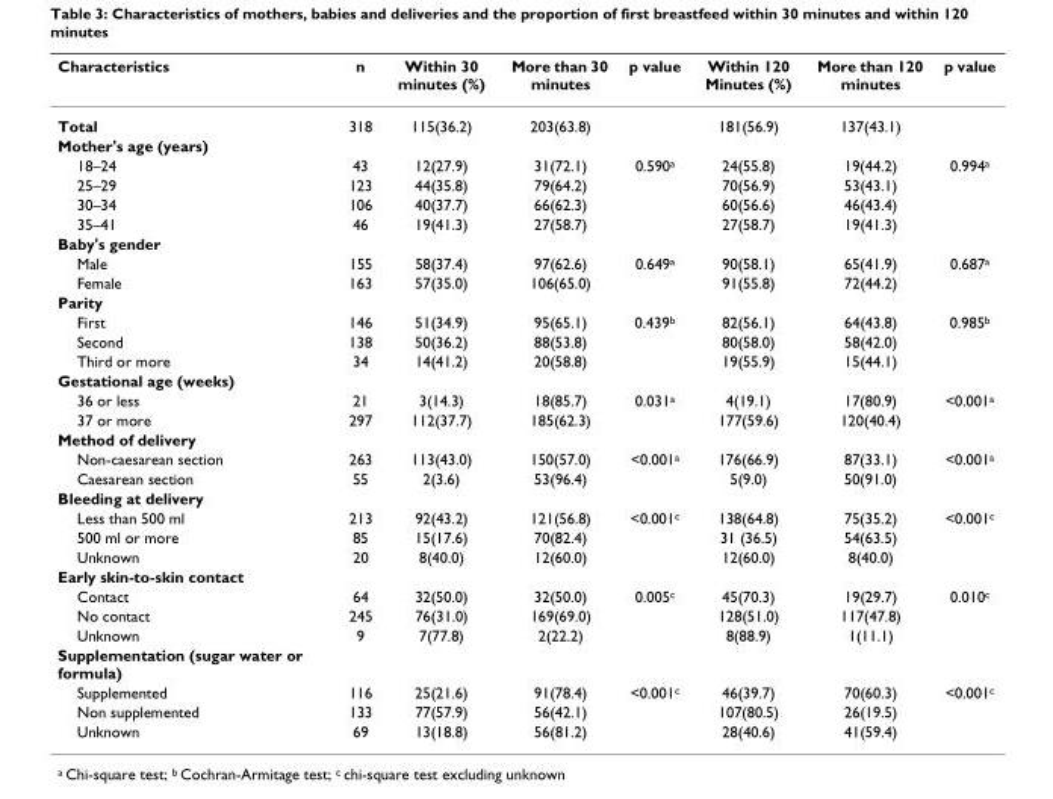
<table><thead><tr><td>Characteristics</td><td>n</td><td>Within 30 minutes (%)</td><td>More than 30 minutes</td><td>p value</td><td>Within 120 Minutes (%)</td><td>More than 120 minutes</td><td>p value</td></tr></thead><tbody><tr><td>Total</td><td>318</td><td>115(36.2)</td><td>203(63.8)</td><td></td><td>181(56.9)</td><td>137(43.1)</td><td></td></tr><tr><td colspan="8">Mother&#x27;s age (years)</td></tr><tr><td>18–24</td><td>43</td><td>12(27.9)</td><td>31(72.1)</td><td>0.590<sup>a</sup></td><td>24(55.8)</td><td>19(44.2)</td><td>0.994<sup>a</sup></td></tr><tr><td>25–29</td><td>123</td><td>44(35.8)</td><td>79(64.2)</td><td></td><td>70(56.9)</td><td>53(43.1)</td><td></td></tr><tr><td>30–34</td><td>106</td><td>40(37.7)</td><td>66(62.3)</td><td></td><td>60(56.6)</td><td>46(43.4)</td><td></td></tr><tr><td>35–41</td><td>46</td><td>19(41.3)</td><td>27(58.7)</td><td></td><td>27(58.7)</td><td>19(41.3)</td><td></td></tr><tr><td colspan="8">Baby&#x27;s gender</td></tr><tr><td>Male</td><td>155</td><td>58(37.4)</td><td>97(62.6)</td><td>0.649<sup>a</sup></td><td>90(58.1)</td><td>65(41.9)</td><td>0.687<sup>a</sup></td></tr><tr><td>Female</td><td>163</td><td>57(35.0)</td><td>106(65.0)</td><td></td><td>91(55.8)</td><td>72(44.2)</td><td></td></tr><tr><td colspan="8">Parity</td></tr><tr><td>First</td><td>146</td><td>51(34.9)</td><td>95(65.1)</td><td>0.439<sup>b</sup></td><td>82(56.1)</td><td>64(43.8)</td><td>0.985<sup>b</sup></td></tr><tr><td>Second</td><td>138</td><td>50(36.2)</td><td>88(53.8)</td><td></td><td>80(58.0)</td><td>58(42.0)</td><td></td></tr><tr><td>Third or more</td><td>34</td><td>14(41.2)</td><td>20(58.8)</td><td></td><td>19(55.9)</td><td>15(44.1)</td><td></td></tr><tr><td colspan="8">Gestational age (weeks)</td></tr><tr><td>36 or less</td><td>21</td><td>3(14.3)</td><td>18(85.7)</td><td>0.031<sup>a</sup></td><td>4(19.1)</td><td>17(80.9)</td><td>&lt;0.001<sup>a</sup></td></tr><tr><td>37 or more</td><td>297</td><td>112(37.7)</td><td>185(62.3)</td><td></td><td>177(59.6)</td><td>120(40.4)</td><td></td></tr><tr><td colspan="8">Method of delivery</td></tr><tr><td>Non-caesarean section</td><td>263</td><td>113(43.0)</td><td>150(57.0)</td><td>&lt;0.001<sup>a</sup></td><td>176(66.9)</td><td>87(33.1)</td><td>&lt;0.001<sup>a</sup></td></tr><tr><td>Caesarean section</td><td>55</td><td>2(3.6)</td><td>53(96.4)</td><td></td><td>5(9.0)</td><td>50(91.0)</td><td></td></tr><tr><td colspan="8">Bleeding at delivery</td></tr><tr><td>Less than 500 ml</td><td>213</td><td>92(43.2)</td><td>121(56.8)</td><td>&lt;0.001<sup>c</sup></td><td>138(64.8)</td><td>75(35.2)</td><td>&lt;0.001<sup>c</sup></td></tr><tr><td>500 ml or more</td><td>85</td><td>15(17.6)</td><td>70(82.4)</td><td></td><td>31 (36.5)</td><td>54(63.5)</td><td></td></tr><tr><td>Unknown</td><td>20</td><td>8(40.0)</td><td>12(60.0)</td><td></td><td>12(60.0)</td><td>8(40.0)</td><td></td></tr><tr><td colspan="8">Early skin-to-skin contact</td></tr><tr><td>Contact</td><td>64</td><td>32(50.0)</td><td>32(50.0)</td><td>0.005<sup>c</sup></td><td>45(70.3)</td><td>19(29.7)</td><td>0.010<sup>c</sup></td></tr><tr><td>No contact</td><td>245</td><td>76(31.0)</td><td>169(69.0)</td><td></td><td>128(51.0)</td><td>117(47.8)</td><td></td></tr><tr><td>Unknown</td><td>9</td><td>7(77.8)</td><td>2(22.2)</td><td></td><td>8(88.9)</td><td>1(11.1)</td><td></td></tr><tr><td colspan="8">Supplementation (sugar water or formula)</td></tr><tr><td>Supplemented</td><td>116</td><td>25(21.6)</td><td>91(78.4)</td><td>&lt;0.001<sup>c</sup></td><td>46(39.7)</td><td>70(60.3)</td><td>&lt;0.001<sup>c</sup></td></tr><tr><td>Non supplemented</td><td>133</td><td>77(57.9)</td><td>56(42.1)</td><td></td><td>107(80.5)</td><td>26(19.5)</td><td></td></tr><tr><td>Unknown</td><td>69</td><td>13(18.8)</td><td>56(81.2)</td><td></td><td>28(40.6)</td><td>41(59.4)</td><td></td></tr></tbody></table>